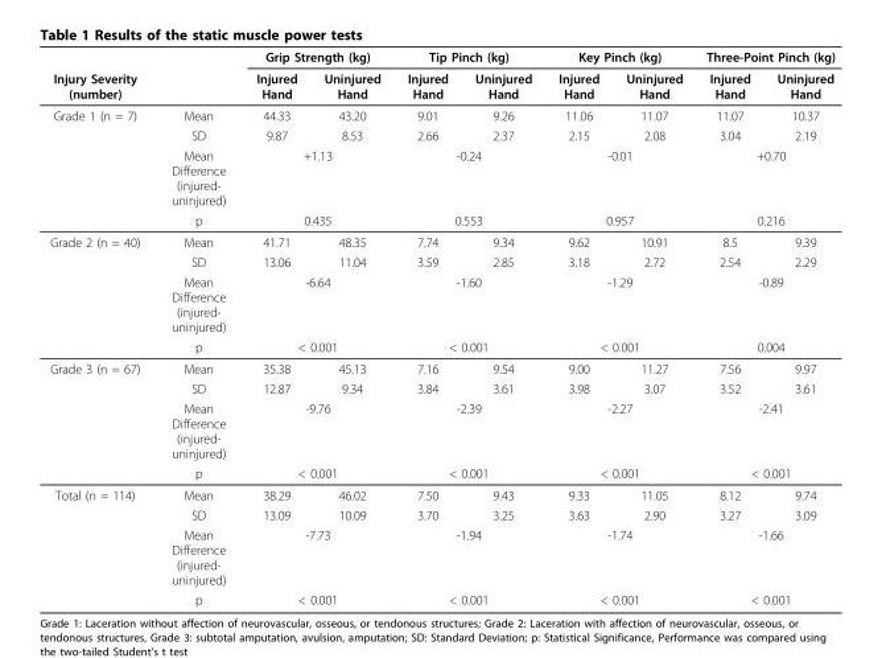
<table><thead><tr><td rowspan="2">Injury Severity (number)</td><td rowspan="2"></td><td colspan="2">Grip Strength (kg)</td><td colspan="2">Tip Pinch (kg)</td><td colspan="2">Key Pinch (kg)</td><td colspan="2">Three-Point Pinch (kg)</td></tr><tr><td>Injured Hand</td><td>Uninjured Hand</td><td>Injured Hand</td><td>Uninjured Hand</td><td>Injured Hand</td><td>Uninjured Hand</td><td>Injured Hand</td><td>Uninjured Hand</td></tr></thead><tbody><tr><td rowspan="4">Grade 1 (n = 7)</td><td>Mean</td><td>44.33</td><td>43.20</td><td>9.01</td><td>9.26</td><td>11.06</td><td>11.07</td><td>11.07</td><td>10.37</td></tr><tr><td>SD</td><td>9.87</td><td>8.53</td><td>2.66</td><td>2.37</td><td>2.15</td><td>2.08</td><td>3.04</td><td>2.19</td></tr><tr><td>Mean Difference (injured- uninjured)</td><td colspan="2">+1.13</td><td colspan="2">-0.24</td><td colspan="2">-0.01</td><td colspan="2">+0.70</td></tr><tr><td>p</td><td colspan="2">0.435</td><td colspan="2">0.553</td><td colspan="2">0.957</td><td colspan="2">0.216</td></tr><tr><td rowspan="4">Grade 2 (n = 40)</td><td>Mean</td><td>41.71</td><td>48.35</td><td>7.74</td><td>9.34</td><td>9.62</td><td>10.91</td><td>8.5</td><td>9.39</td></tr><tr><td>SD</td><td>13.06</td><td>11.04</td><td>3.59</td><td>2.85</td><td>3.18</td><td>2.72</td><td>2.54</td><td>2.29</td></tr><tr><td>Mean Difference (injured- uninjured)</td><td colspan="2">-6.64</td><td colspan="2">-1.60</td><td colspan="2">-1.29</td><td colspan="2">-0.89</td></tr><tr><td>p</td><td colspan="2">&lt; 0.001</td><td colspan="2">&lt; 0.001</td><td colspan="2">&lt; 0.001</td><td colspan="2">0.004</td></tr><tr><td rowspan="4">Grade 3 (n = 67)</td><td>Mean</td><td>35.38</td><td>45.13</td><td>7.16</td><td>9.54</td><td>9.00</td><td>11.27</td><td>7.56</td><td>9.97</td></tr><tr><td>SD</td><td>12.87</td><td>9.34</td><td>3.84</td><td>3.61</td><td>3.98</td><td>3.07</td><td>3.52</td><td>3.61</td></tr><tr><td>Mean Difference (injured- uninjured)</td><td colspan="2">-9.76</td><td colspan="2">-2.39</td><td colspan="2">-2.27</td><td colspan="2">-2.41</td></tr><tr><td>p</td><td colspan="2">&lt; 0.001</td><td colspan="2">&lt; 0.001</td><td colspan="2">&lt; 0.001</td><td colspan="2">&lt; 0.001</td></tr><tr><td rowspan="4">Total (n = 114)</td><td>Mean</td><td>38.29</td><td>46.02</td><td>7.50</td><td>9.43</td><td>9.33</td><td>11.05</td><td>8.12</td><td>9.74</td></tr><tr><td>SD</td><td>13.09</td><td>10.09</td><td>3.70</td><td>3.25</td><td>3.63</td><td>2.90</td><td>3.27</td><td>3.09</td></tr><tr><td>Mean Difference (injured- uninjured)</td><td colspan="2">-7.73</td><td colspan="2">-1.94</td><td colspan="2">-1.74</td><td colspan="2">-1.66</td></tr><tr><td>p</td><td colspan="2">&lt; 0.001</td><td colspan="2">&lt; 0.001</td><td colspan="2">&lt; 0.001</td><td colspan="2">&lt; 0.001</td></tr></tbody></table>